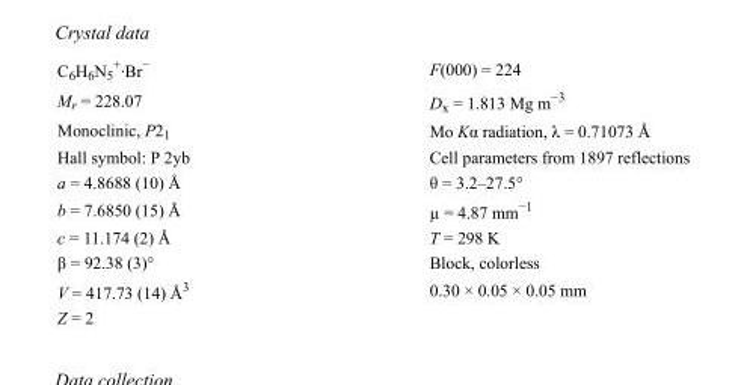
<table><tbody><tr><td>C<sub>6</sub>H<sub>6</sub>N<sub>5</sub> <sup>+</sup>·Br<sup>−</sup></td><td>F(000) = 224</td></tr><tr><td>M<sub>r</sub> = 228.07</td><td>D<sub>x</sub> = 1.813 Mg m<sup>−3</sup></td></tr><tr><td>Monoclinic, P2<sub>1</sub></td><td>Mo Kα radiation, λ = 0.71073 Å</td></tr><tr><td>Hall symbol: P 2yb</td><td>Cell parameters from 1897 reflections</td></tr><tr><td>a = 4.8688 (10) Å</td><td>θ = 3.2–27.5°</td></tr><tr><td>b = 7.6850 (15) Å</td><td>µ = 4.87 mm<sup>−1</sup></td></tr><tr><td>c = 11.174 (2) Å</td><td>T = 298 K</td></tr><tr><td>β = 92.38 (3)°</td><td>Block, colorless</td></tr><tr><td>V = 417.73 (14) Å<sup>3</sup></td><td>0.30 × 0.05 × 0.05 mm</td></tr><tr><td>Z = 2</td><td></td></tr></tbody></table>